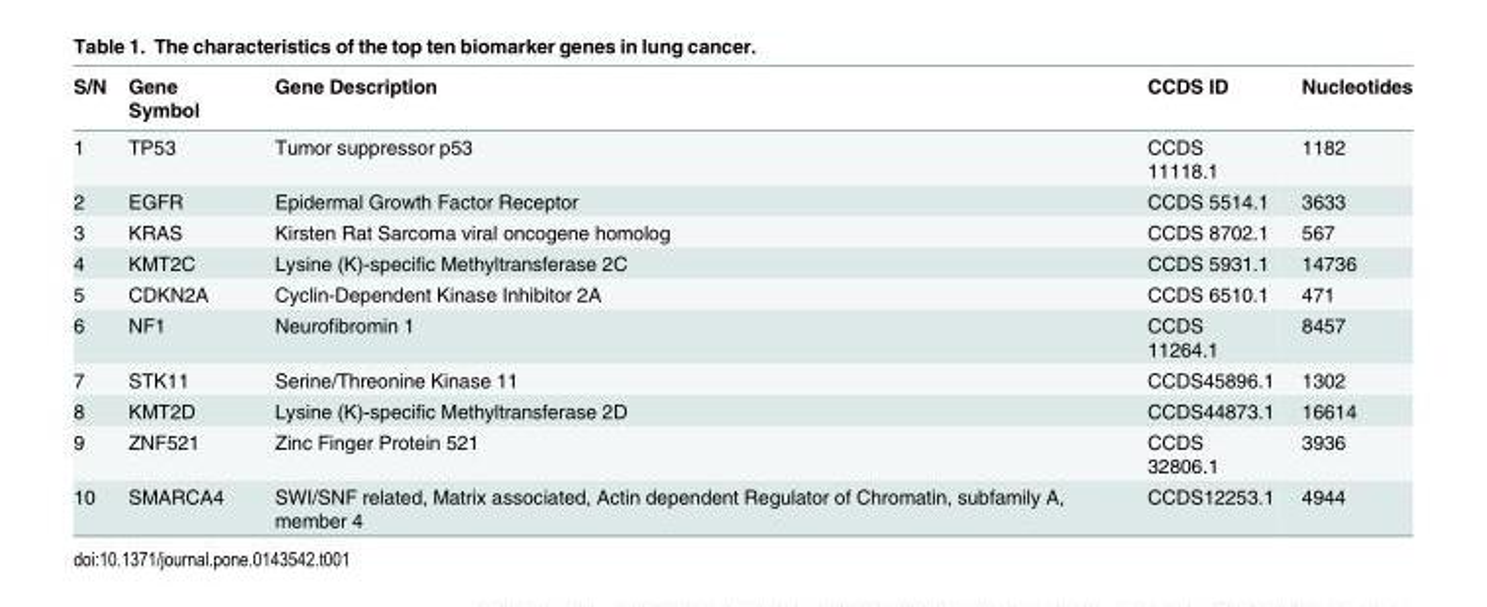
<table><thead><tr><td>S/N</td><td>Gene Symbol</td><td>Gene Description</td><td>CCDS ID</td><td>Nucleotides</td></tr></thead><tbody><tr><td>1</td><td>TP53</td><td>Tumor suppressor p53</td><td>CCDS 11118.1</td><td>1182</td></tr><tr><td>2</td><td>EGFR</td><td>Epidermal Growth Factor Receptor</td><td>CCDS 5514.1</td><td>3633</td></tr><tr><td>3</td><td>KRAS</td><td>Kirsten Rat Sarcoma viral oncogene homolog</td><td>CCDS 8702.1</td><td>567</td></tr><tr><td>4</td><td>KMT2C</td><td>Lysine (K)-specific Methyltransferase 2C</td><td>CCDS 5931.1</td><td>14736</td></tr><tr><td>5</td><td>CDKN2A</td><td>Cyclin-Dependent Kinase Inhibitor 2A</td><td>CCDS 6510.1</td><td>471</td></tr><tr><td>6</td><td>NF1</td><td>Neurofibromin 1</td><td>CCDS 11264.1</td><td>8457</td></tr><tr><td>7</td><td>STK11</td><td>Serine/Threonine Kinase 11</td><td>CCDS45896.1</td><td>1302</td></tr><tr><td>8</td><td>KMT2D</td><td>Lysine (K)-specific Methyltransferase 2D</td><td>CCDS44873.1</td><td>16614</td></tr><tr><td>9</td><td>ZNF521</td><td>Zinc Finger Protein 521</td><td>CCDS 32806.1</td><td>3936</td></tr><tr><td>10</td><td>SMARCA4</td><td>SWI/SNF related, Matrix associated, Actin dependent Regulator of Chromatin, subfamily A, member 4</td><td>CCDS12253.1</td><td>4944</td></tr></tbody></table>